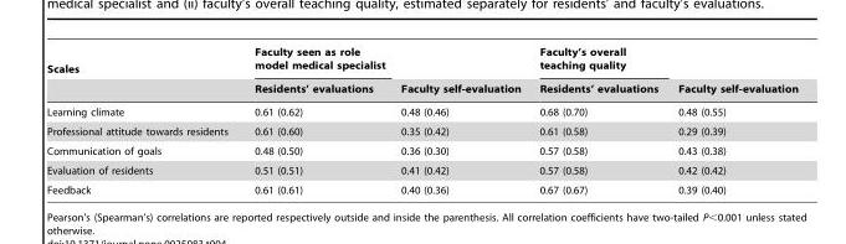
<table><thead><tr><td rowspan="2">Scales</td><td rowspan="2">Faculty seen as role model medical specialist Residents’ evaluations</td><td rowspan="2">Faculty self-evaluation</td><td rowspan="2">Faculty’s overall teaching quality Residents’ evaluations</td><td rowspan="2">Faculty self-evaluation</td></tr><tr></tr></thead><tbody><tr><td>Learning climate</td><td>0.61 (0.62)</td><td>0.48 (0.46)</td><td>0.68 (0.70)</td><td>0.48 (0.55)</td></tr><tr><td>Professional attitude towards residents</td><td>0.61 (0.60)</td><td>0.35 (0.42)</td><td>0.61 (0.58)</td><td>0.29 (0.39)</td></tr><tr><td>Communication of goals</td><td>0.48 (0.50)</td><td>0.36 (0.30)</td><td>0.57 (0.58)</td><td>0.43 (0.38)</td></tr><tr><td>Evaluation of residents</td><td>0.51 (0.51)</td><td>0.41 (0.42)</td><td>0.57 (0.58)</td><td>0.42 (0.42)</td></tr><tr><td>Feedback</td><td>0.61 (0.61)</td><td>0.40 (0.36)</td><td>0.67 (0.67)</td><td>0.39 (0.40)</td></tr></tbody></table>